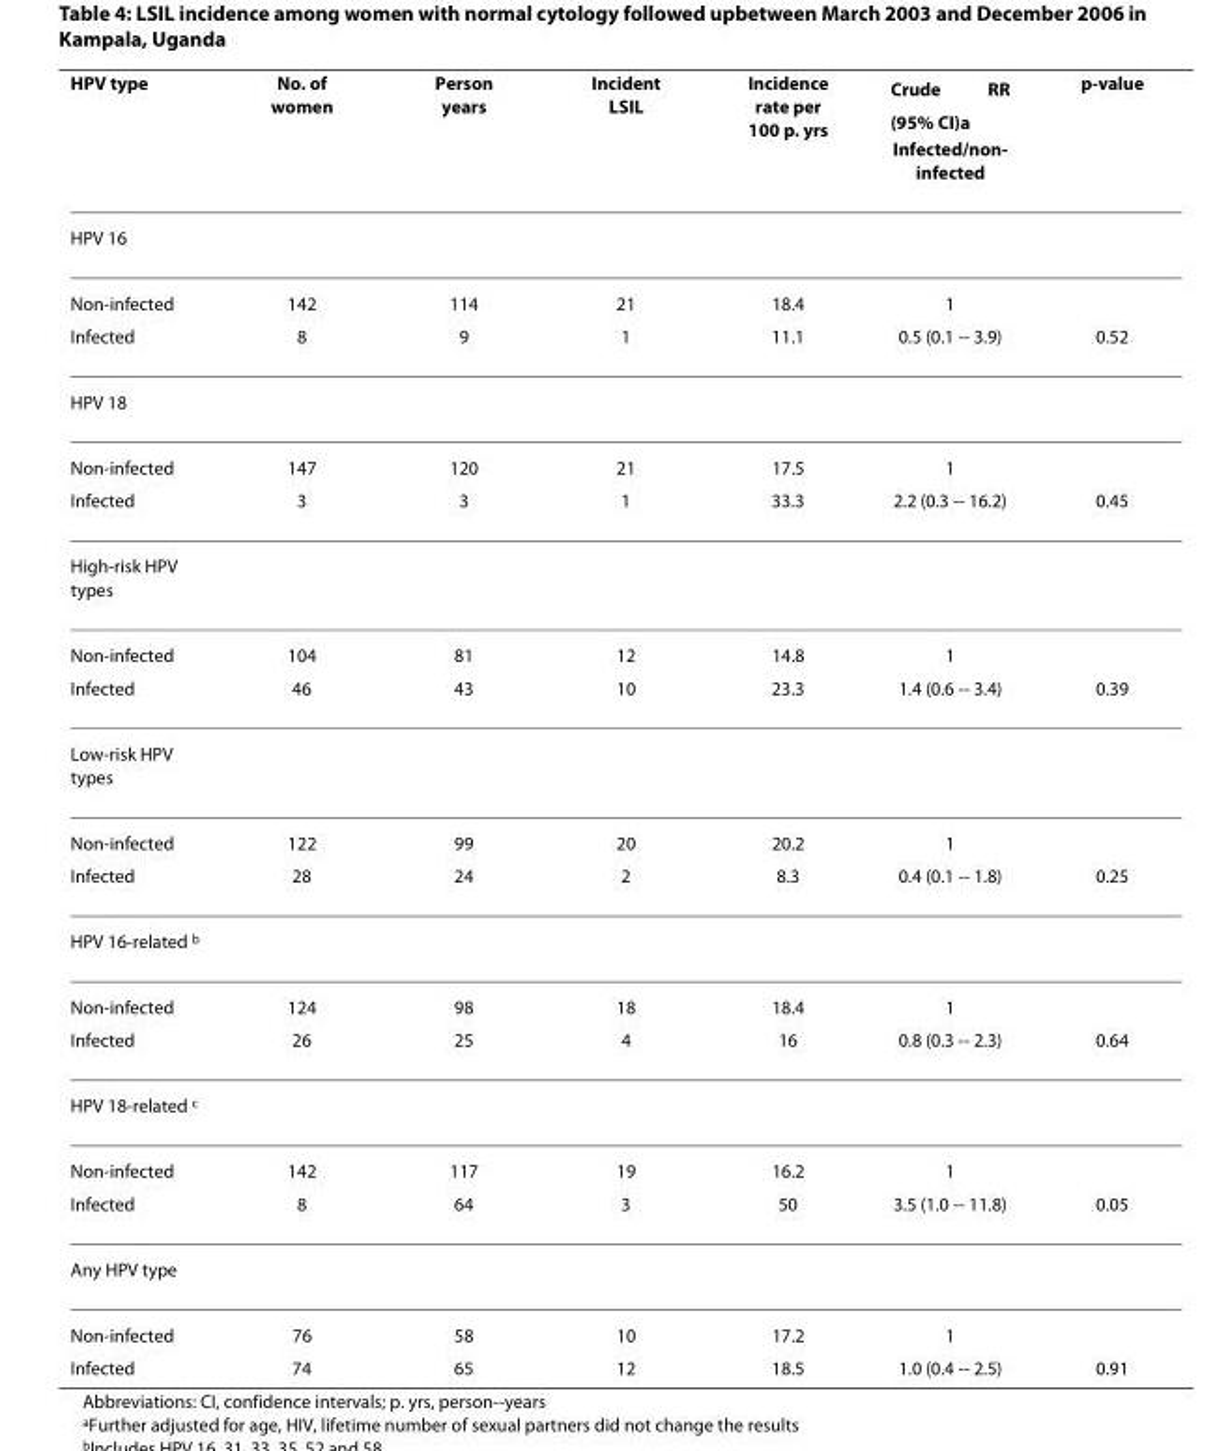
<table><thead><tr><td>HPV type</td><td>No. of women</td><td>Person years</td><td>Incident LSIL</td><td>Incidence rate per 100 p. yrs</td><td>Crude RR (95% CI)a Infected/non- infected</td><td>p-value</td></tr></thead><tbody><tr><td colspan="7">HPV 16</td></tr><tr><td>Non-infected</td><td>142</td><td>114</td><td>21</td><td>18.4</td><td>1</td><td></td></tr><tr><td>Infected</td><td>8</td><td>9</td><td>1</td><td>11.1</td><td>0.5 (0.1 -- 3.9)</td><td>0.52</td></tr><tr><td colspan="7">HPV 18</td></tr><tr><td>Non-infected</td><td>147</td><td>120</td><td>21</td><td>17.5</td><td>1</td><td></td></tr><tr><td>Infected</td><td>3</td><td>3</td><td>1</td><td>33.3</td><td>2.2 (0.3 -- 16.2)</td><td>0.45</td></tr><tr><td colspan="7">High-risk HPV types</td></tr><tr><td>Non-infected</td><td>104</td><td>81</td><td>12</td><td>14.8</td><td>1</td><td></td></tr><tr><td>Infected</td><td>46</td><td>43</td><td>10</td><td>23.3</td><td>1.4 (0.6 -- 3.4)</td><td>0.39</td></tr><tr><td colspan="7">Low-risk HPV types</td></tr><tr><td>Non-infected</td><td>122</td><td>99</td><td>20</td><td>20.2</td><td>1</td><td></td></tr><tr><td>Infected</td><td>28</td><td>24</td><td>2</td><td>8.3</td><td>0.4 (0.1 -- 1.8)</td><td>0.25</td></tr><tr><td colspan="7">HPV 16-related b</td></tr><tr><td>Non-infected</td><td>124</td><td>98</td><td>18</td><td>18.4</td><td>1</td><td></td></tr><tr><td>Infected</td><td>26</td><td>25</td><td>4</td><td>16</td><td>0.8 (0.3 -- 2.3)</td><td>0.64</td></tr><tr><td colspan="7">HPV 18-related c</td></tr><tr><td>Non-infected</td><td>142</td><td>117</td><td>19</td><td>16.2</td><td>1</td><td></td></tr><tr><td>Infected</td><td>8</td><td>64</td><td>3</td><td>50</td><td>3.5 (1.0 -- 11.8)</td><td>0.05</td></tr><tr><td colspan="7">Any HPV type</td></tr><tr><td>Non-infected</td><td>76</td><td>58</td><td>10</td><td>17.2</td><td>1</td><td></td></tr><tr><td>Infected</td><td>74</td><td>65</td><td>12</td><td>18.5</td><td>1.0 (0.4 -- 2.5)</td><td>0.91</td></tr></tbody></table>